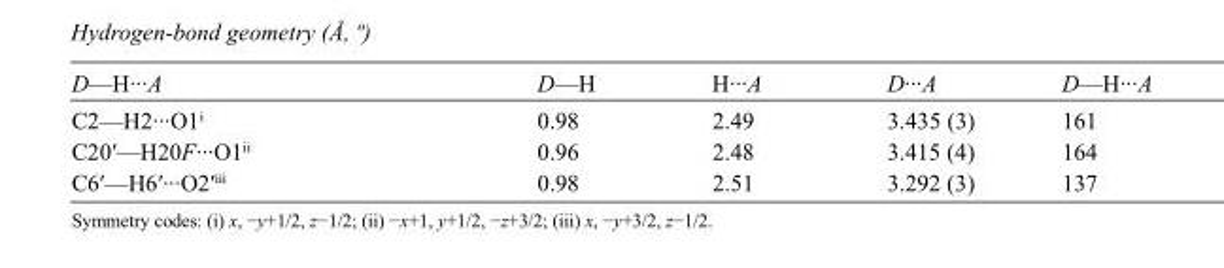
<table><tbody><tr><td>D—H···A</td><td>D—H</td><td>H···A</td><td>D···A</td><td>D—H···A</td></tr><tr><td>C2—H2···O1<sup>i</sup></td><td>0.98</td><td>2.49</td><td>3.435 (3)</td><td>161</td></tr><tr><td>C20′—H20F···O1<sup>ii</sup></td><td>0.96</td><td>2.48</td><td>3.415 (4)</td><td>164</td></tr><tr><td>C6′—H6′···O2′<sup>iii</sup></td><td>0.98</td><td>2.51</td><td>3.292 (3)</td><td>137</td></tr></tbody></table>